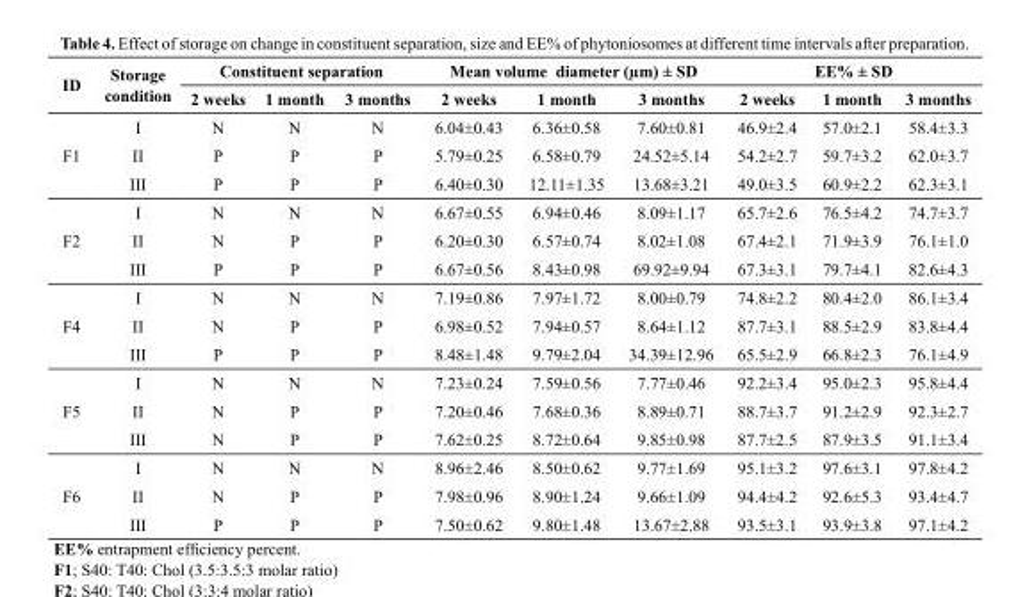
<table><thead><tr><td rowspan="2">ID</td><td rowspan="2">Storage condition</td><td colspan="3">Constituent separation</td><td colspan="3">Mean volume diameter (µm) ± SD</td><td colspan="3">EE% ± SD</td></tr><tr><td>2 weeks</td><td>1 month</td><td>3 months</td><td>2 weeks</td><td>1 month</td><td>3 months</td><td>2 weeks</td><td>1 month</td><td>3 months</td></tr></thead><tbody><tr><td rowspan="3">F1</td><td>I</td><td>N</td><td>N</td><td>N</td><td>6.04±0.43</td><td>6.36±0.58</td><td>7.60±0.81</td><td>46.9±2.4</td><td>57.0±2.1</td><td>58.4±3.3</td></tr><tr><td>II</td><td>P</td><td>P</td><td>P</td><td>5.79±0.25</td><td>6.58±0.79</td><td>24.52±5.14</td><td>54.2±2.7</td><td>59.7±3.2</td><td>62.0±3.7</td></tr><tr><td>III</td><td>P</td><td>P</td><td>P</td><td>6.40±0.30</td><td>12.11±1.35</td><td>13.68±3.21</td><td>49.0±3.5</td><td>60.9±2.2</td><td>62.3±3.1</td></tr><tr><td rowspan="3">F2</td><td>I</td><td>N</td><td>N</td><td>N</td><td>6.67±0.55</td><td>6.94±0.46</td><td>8.09±1.17</td><td>65.7±2.6</td><td>76.5±4.2</td><td>74.7±3.7</td></tr><tr><td>II</td><td>N</td><td>P</td><td>P</td><td>6.20±0.30</td><td>6.57±0.74</td><td>8.02±1.08</td><td>67.4±2.1</td><td>71.9±3.9</td><td>76.1±1.0</td></tr><tr><td>III</td><td>P</td><td>P</td><td>P</td><td>6.67±0.56</td><td>8.43±0.98</td><td>69.92±9.94</td><td>67.3±3.1</td><td>79.7±4.1</td><td>82.6±4.3</td></tr><tr><td rowspan="3">F4</td><td>I</td><td>N</td><td>N</td><td>N</td><td>7.19±0.86</td><td>7.97±1.72</td><td>8.00±0.79</td><td>74.8±2.2</td><td>80.4±2.0</td><td>86.1±3.4</td></tr><tr><td>II</td><td>N</td><td>P</td><td>P</td><td>6.98±0.52</td><td>7.94±0.57</td><td>8.64±1.12</td><td>87.7±3.1</td><td>88.5±2.9</td><td>83.8±4.4</td></tr><tr><td>III</td><td>P</td><td>P</td><td>P</td><td>8.48±1.48</td><td>9.79±2.04</td><td>34.39±12.96</td><td>65.5±2.9</td><td>66.8±2.3</td><td>76.1±4.9</td></tr><tr><td rowspan="3">F5</td><td>I</td><td>N</td><td>N</td><td>N</td><td>7.23±0.24</td><td>7.59±0.56</td><td>7.77±0.46</td><td>92.2±3.4</td><td>95.0±2.3</td><td>95.8±4.4</td></tr><tr><td>II</td><td>N</td><td>P</td><td>P</td><td>7.20±0.46</td><td>7.68±0.36</td><td>8.89±0.71</td><td>88.7±3.7</td><td>91.2±2.9</td><td>92.3±2.7</td></tr><tr><td>III</td><td>N</td><td>P</td><td>P</td><td>7.62±0.25</td><td>8.72±0.64</td><td>9.85±0.98</td><td>87.7±2.5</td><td>87.9±3.5</td><td>91.1±3.4</td></tr><tr><td rowspan="3">F6</td><td>I</td><td>N</td><td>N</td><td>N</td><td>8.96±2.46</td><td>8.50±0.62</td><td>9.77±1.69</td><td>95.1±3.2</td><td>97.6±3.1</td><td>97.8±4.2</td></tr><tr><td>II</td><td>N</td><td>P</td><td>P</td><td>7.98±0.96</td><td>8.90±1.24</td><td>9.66±1.09</td><td>94.4±4.2</td><td>92.6±5.3</td><td>93.4±4.7</td></tr><tr><td>III</td><td>P</td><td>P</td><td>P</td><td>7.50±0.62</td><td>9.80±1.48</td><td>13.67±2.88</td><td>93.5±3.1</td><td>93.9±3.8</td><td>97.1±4.2</td></tr></tbody></table>